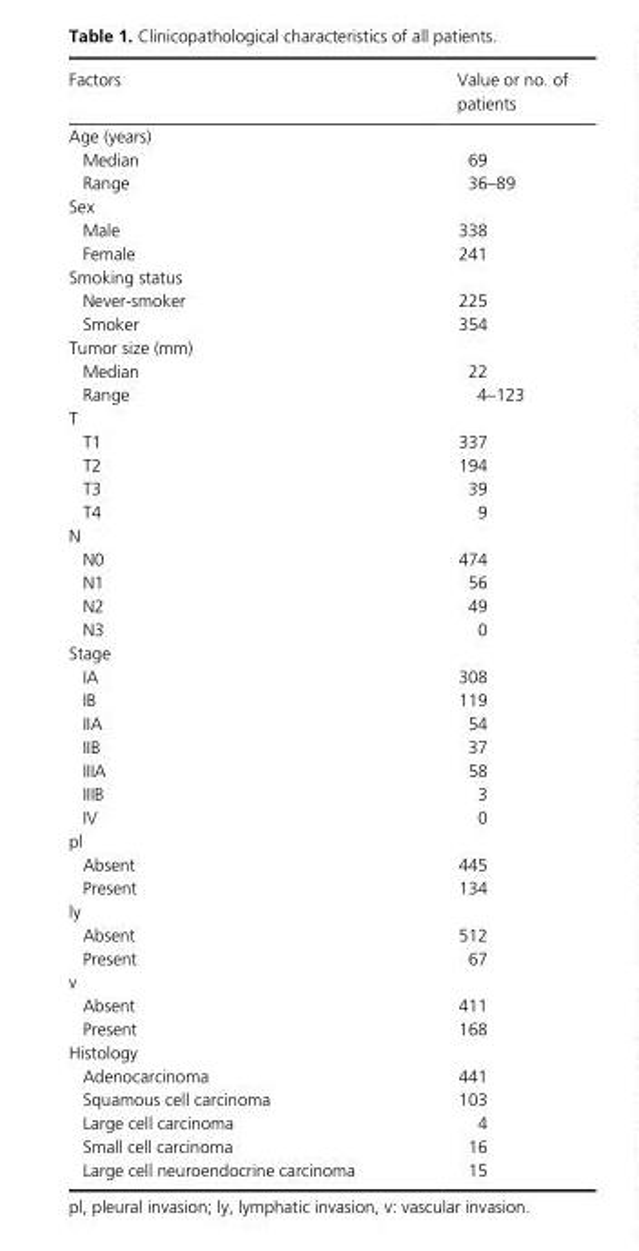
<table><thead><tr><td>Factors</td><td>Value or no. of patients</td></tr></thead><tbody><tr><td colspan="2">Age (years)</td></tr><tr><td>Median</td><td>69</td></tr><tr><td>Range</td><td>36–89</td></tr><tr><td colspan="2">Sex</td></tr><tr><td>Male</td><td>338</td></tr><tr><td>Female</td><td>241</td></tr><tr><td colspan="2">Smoking status</td></tr><tr><td>Never- smoker</td><td>225</td></tr><tr><td>Smoker</td><td>354</td></tr><tr><td colspan="2">Tumor size (mm)</td></tr><tr><td>Median</td><td>22</td></tr><tr><td>Range</td><td>4–123</td></tr><tr><td colspan="2">T</td></tr><tr><td>T1</td><td>337</td></tr><tr><td>T2</td><td>194</td></tr><tr><td>T3</td><td>39</td></tr><tr><td>T4</td><td>9</td></tr><tr><td colspan="2">N</td></tr><tr><td>N0</td><td>474</td></tr><tr><td>N1</td><td>56</td></tr><tr><td>N2</td><td>49</td></tr><tr><td>N3</td><td>0</td></tr><tr><td colspan="2">Stage</td></tr><tr><td>IA</td><td>308</td></tr><tr><td>IB</td><td>119</td></tr><tr><td>IIA</td><td>54</td></tr><tr><td>IIB</td><td>37</td></tr><tr><td>IIIA</td><td>58</td></tr><tr><td>IIIB</td><td>3</td></tr><tr><td>IV</td><td>0</td></tr><tr><td colspan="2">pl</td></tr><tr><td>Absent</td><td>445</td></tr><tr><td>Present</td><td>134</td></tr><tr><td colspan="2">ly</td></tr><tr><td>Absent</td><td>512</td></tr><tr><td>Present</td><td>67</td></tr><tr><td colspan="2">v</td></tr><tr><td>Absent</td><td>411</td></tr><tr><td>Present</td><td>168</td></tr><tr><td colspan="2">Histology</td></tr><tr><td>Adenocarcinoma</td><td>441</td></tr><tr><td>Squamous cell carcinoma</td><td>103</td></tr><tr><td>Large cell carcinoma</td><td>4</td></tr><tr><td>Small cell carcinoma</td><td>16</td></tr><tr><td>Large cell neuroendocrine carcinoma</td><td>15</td></tr></tbody></table>